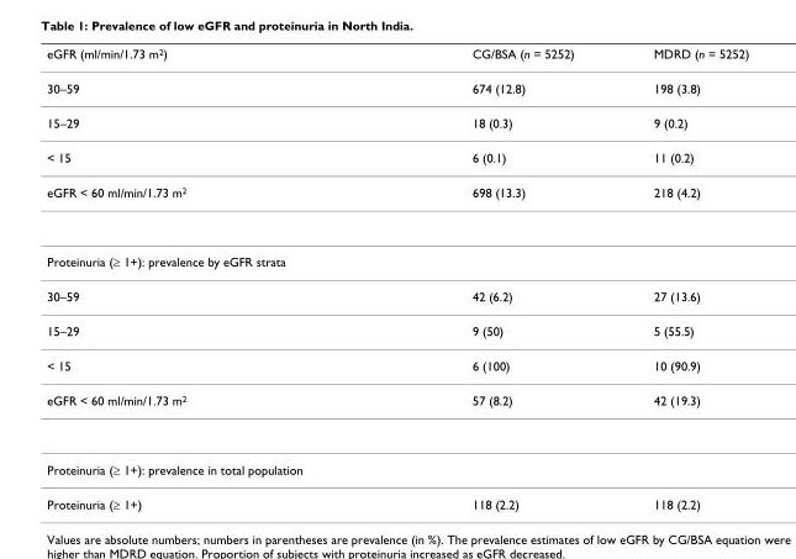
<table><thead><tr><td>eGFR (ml/min/1.73 m2)</td><td>CG/BSA (n = 5252)</td><td>MDRD (n = 5252)</td></tr></thead><tbody><tr><td>30–59</td><td>674 (12.8)</td><td>198 (3.8)</td></tr><tr><td>15–29</td><td>18 (0.3)</td><td>9 (0.2)</td></tr><tr><td>&lt; 15</td><td>6 (0.1)</td><td>11 (0.2)</td></tr><tr><td>eGFR &lt; 60 ml/min/1.73 m2</td><td>698 (13.3)</td><td>218 (4.2)</td></tr><tr><td colspan="3">Proteinuria (≥ 1+): prevalence by eGFR strata</td></tr><tr><td>30–59</td><td>42 (6.2)</td><td>27 (13.6)</td></tr><tr><td>15–29</td><td>9 (50)</td><td>5 (55.5)</td></tr><tr><td>&lt; 15</td><td>6 (100)</td><td>10 (90.9)</td></tr><tr><td>eGFR &lt; 60 ml/min/1.73 m2</td><td>57 (8.2)</td><td>42 (19.3)</td></tr><tr><td colspan="3">Proteinuria (≥ 1+): prevalence in total population</td></tr><tr><td>Proteinuria (≥ 1+)</td><td>118 (2.2)</td><td>118 (2.2)</td></tr></tbody></table>